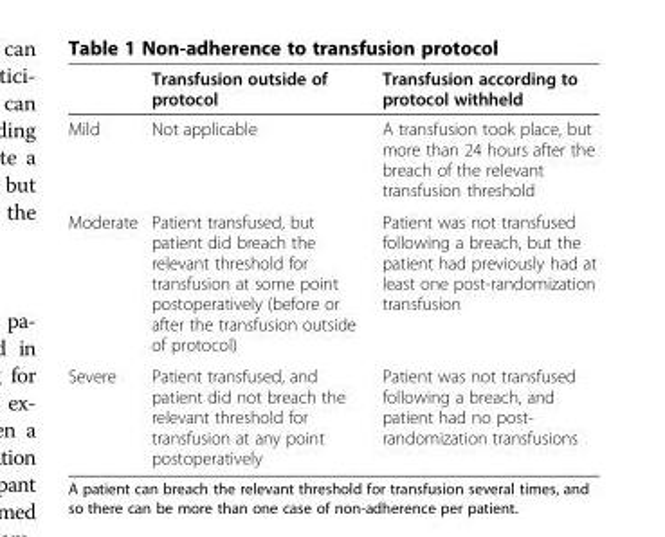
<table><thead><tr><td></td><td>Transfusion outside of protocol</td><td>Transfusion according to protocol withheld</td></tr></thead><tbody><tr><td>Mild</td><td>Not applicable</td><td>A transfusion took place, but more than 24 hours after the breach of the relevant transfusion threshold</td></tr><tr><td>Moderate</td><td>Patient transfused, but patient did breach the relevant threshold for transfusion at some point postoperatively (before or after the transfusion outside of protocol)</td><td>Patient was not transfused following a breach, but the patient had previously had at least one post-randomization transfusion</td></tr><tr><td>Severe</td><td>Patient transfused, and patient did not breach the relevant threshold for transfusion at any point postoperatively</td><td>Patient was not transfused following a breach, and patient had no post- randomization transfusions</td></tr></tbody></table>